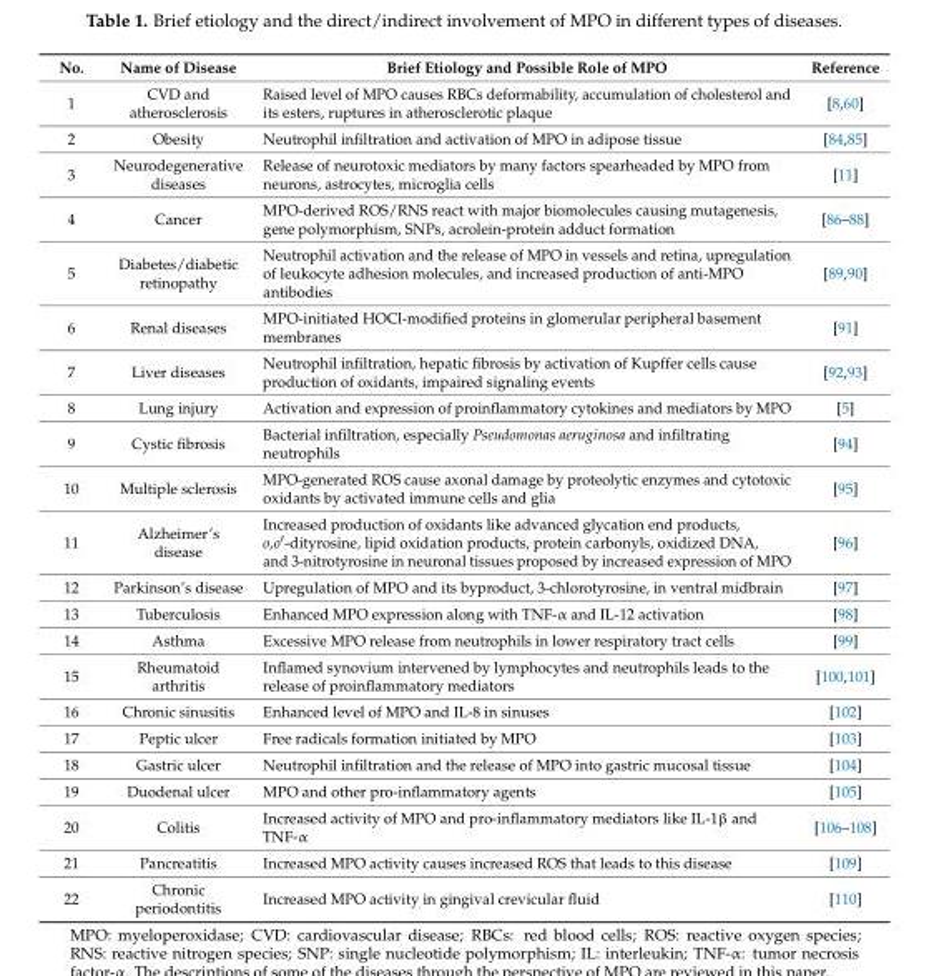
<table><thead><tr><td>No.</td><td>Name of Disease</td><td>Brief Etiology and Possible Role of MPO</td><td>Reference</td></tr></thead><tbody><tr><td>1</td><td>CVD and atherosclerosis</td><td>Raised level of MPO causes RBCs deformability, accumulation of cholesterol and its esters, ruptures in atherosclerotic plaque</td><td>[8,60]</td></tr><tr><td>2</td><td>Obesity</td><td>Neutrophil infiltration and activation of MPO in adipose tissue</td><td>[84,85]</td></tr><tr><td>3</td><td>Neurodegenerative diseases</td><td>Release of neurotoxic mediators by many factors spearheaded by MPO from neurons, astrocytes, microglia cells</td><td>[11]</td></tr><tr><td>4</td><td>Cancer</td><td>MPO-derived ROS/RNS react with major biomolecules causing mutagenesis, gene polymorphism, SNPs, acrolein-protein adduct formation</td><td>[86–88]</td></tr><tr><td>5</td><td>Diabetes/diabetic retinopathy</td><td>Neutrophil activation and the release of MPO in vessels and retina, upregulation of leukocyte adhesion molecules, and increased production of anti-MPO antibodies</td><td>[89,90]</td></tr><tr><td>6</td><td>Renal diseases</td><td>MPO-initiated HOCl-modified proteins in glomerular peripheral basement membranes</td><td>[91]</td></tr><tr><td>7</td><td>Liver diseases</td><td>Neutrophil infiltration, hepatic fibrosis by activation of Kupffer cells cause production of oxidants, impaired signaling events</td><td>[92,93]</td></tr><tr><td>8</td><td>Lung injury</td><td>Activation and expression of proinflammatory cytokines and mediators by MPO</td><td>[5]</td></tr><tr><td>9</td><td>Cystic fibrosis</td><td>Bacterial infiltration, especially Pseudomonas aeruginosa and infiltrating neutrophils</td><td>[94]</td></tr><tr><td>10</td><td>Multiple sclerosis</td><td>MPO-generated ROS cause axonal damage by proteolytic enzymes and cytotoxic oxidants by activated immune cells and glia</td><td>[95]</td></tr><tr><td>11</td><td>Alzheimer’s disease</td><td>Increased production of oxidants like advanced glycation end products, o,o′-dityrosine, lipid oxidation products, protein carbonyls, oxidized DNA, and 3-nitrotyrosine in neuronal tissues proposed by increased expression of MPO</td><td>[96]</td></tr><tr><td>12</td><td>Parkinson’s disease</td><td>Upregulation of MPO and its byproduct, 3-chlorotyrosine, in ventral midbrain</td><td>[97]</td></tr><tr><td>13</td><td>Tuberculosis</td><td>Enhanced MPO expression along with TNF-α and IL-12 activation</td><td>[98]</td></tr><tr><td>14</td><td>Asthma</td><td>Excessive MPO release from neutrophils in lower respiratory tract cells</td><td>[99]</td></tr><tr><td>15</td><td>Rheumatoid arthritis</td><td>Inflamed synovium intervened by lymphocytes and neutrophils leads to the release of proinflammatory mediators</td><td>[100,101]</td></tr><tr><td>16</td><td>Chronic sinusitis</td><td>Enhanced level of MPO and IL-8 in sinuses</td><td>[102]</td></tr><tr><td>17</td><td>Peptic ulcer</td><td>Free radicals formation initiated by MPO</td><td>[103]</td></tr><tr><td>18</td><td>Gastric ulcer</td><td>Neutrophil infiltration and the release of MPO into gastric mucosal tissue</td><td>[104]</td></tr><tr><td>19</td><td>Duodenal ulcer</td><td>MPO and other pro-inflammatory agents</td><td>[105]</td></tr><tr><td>20</td><td>Colitis</td><td>Increased activity of MPO and pro-inflammatory mediators like IL-1β and TNF-α</td><td>[106–108]</td></tr><tr><td>21</td><td>Pancreatitis</td><td>Increased MPO activity causes increased ROS that leads to this disease</td><td>[109]</td></tr><tr><td>22</td><td>Chronic periodontitis</td><td>Increased MPO activity in gingival crevicular fluid</td><td>[110]</td></tr></tbody></table>